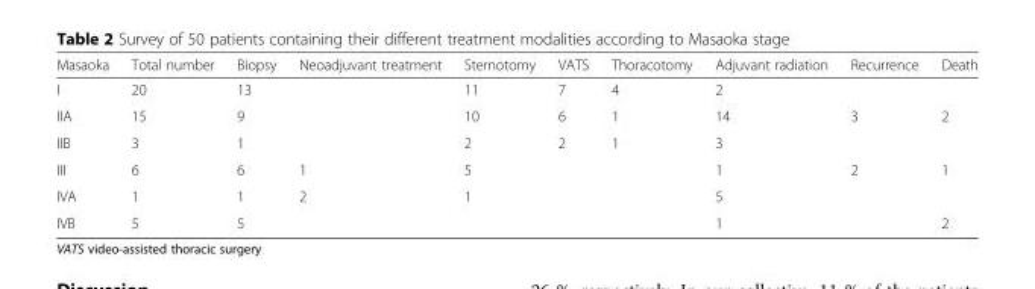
<table><thead><tr><td>Masaoka</td><td>Total number</td><td>Biopsy</td><td>Neoadjuvant treatment</td><td>Sternotomy</td><td>VATS</td><td>Thoracotomy</td><td>Adjuvant radiation</td><td>Recurrence</td><td>Death</td></tr></thead><tbody><tr><td>I</td><td>20</td><td>13</td><td></td><td>11</td><td>7</td><td>4</td><td>2</td><td></td><td></td></tr><tr><td>IIA</td><td>15</td><td>9</td><td></td><td>10</td><td>6</td><td>1</td><td>14</td><td>3</td><td>2</td></tr><tr><td>IIB</td><td>3</td><td>1</td><td></td><td>2</td><td>2</td><td>1</td><td>3</td><td></td><td></td></tr><tr><td>III</td><td>6</td><td>6</td><td>1</td><td>5</td><td></td><td></td><td>1</td><td>2</td><td>1</td></tr><tr><td>IVA</td><td>1</td><td>1</td><td>2</td><td>1</td><td></td><td></td><td>5</td><td></td><td></td></tr><tr><td>IVB</td><td>5</td><td>5</td><td></td><td></td><td></td><td></td><td>1</td><td></td><td>2</td></tr></tbody></table>